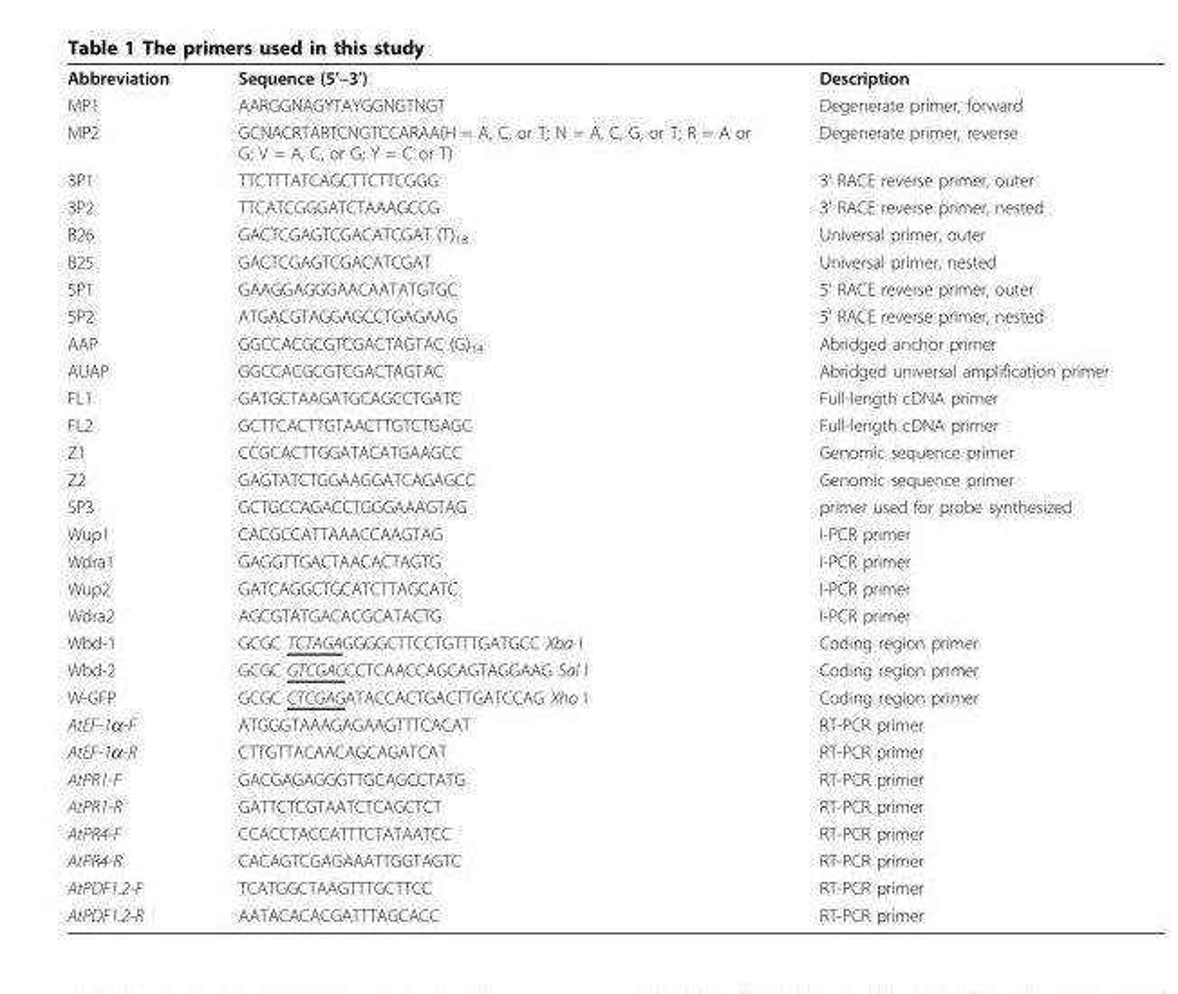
<table><tbody><tr><td>Abbreviation</td><td>Sequence (5’–3’)</td><td>Description</td></tr><tr><td>MP1</td><td>AARGGNAGYTAYGGNGTNGT</td><td>Degenerate primer, forward</td></tr><tr><td>MP2</td><td>GCNACRTARTCNGTCCARAA(H = A, C, or T; N = A, C, G, or T; R = A or G; V = A, C, or G; Y = C or T)</td><td>Degenerate primer, reverse</td></tr><tr><td>3P1</td><td>TTCTTTATCAGCTTCTTCGGG</td><td>3’ RACE reverse primer, outer</td></tr><tr><td>3P2</td><td>TTCATCGGGATCTAAAGCCG</td><td>3’ RACE reverse primer, nested</td></tr><tr><td>B26</td><td>GACTCGAGTCGACATCGAT (T)<sub>18</sub></td><td>Universal primer, outer</td></tr><tr><td>B25</td><td>GACTCGAGTCGACATCGAT</td><td>Universal primer, nested</td></tr><tr><td>5P1</td><td>GAAGGAGGGAACAATATGTGC</td><td>5’ RACE reverse primer, outer</td></tr><tr><td>5P2</td><td>ATGACGTAGGAGCCTGAGAAG</td><td>5’ RACE reverse primer, nested</td></tr><tr><td>AAP</td><td>GGCCACGCGTCGACTAGTAC (G)<sub>14</sub></td><td>Abridged anchor primer</td></tr><tr><td>AUAP</td><td>GGCCACGCGTCGACTAGTAC</td><td>Abridged universal amplification primer</td></tr><tr><td>FL1</td><td>GATGCTAAGATGCAGCCTGATC</td><td>Full-length cDNA primer</td></tr><tr><td>FL2</td><td>GCTTCACTTGTAACTTGTCTGAGC</td><td>Full-length cDNA primer</td></tr><tr><td>Z1</td><td>CCGCACTTGGATACATGAAGCC</td><td>Genomic sequence primer</td></tr><tr><td>Z2</td><td>GAGTATCTGGAAGGATCAGAGCC</td><td>Genomic sequence primer</td></tr><tr><td>5P3</td><td>GCTGCCAGACCTGGGAAAGTAG</td><td>primer used for probe synthesized</td></tr><tr><td>Wup1</td><td>CACGCCATTAAACCAAGTAG</td><td>I-PCR primer</td></tr><tr><td>Wdra1</td><td>GAGGTTGACTAACACTAGTG</td><td>I-PCR primer</td></tr><tr><td>Wup2</td><td>GATCAGGCTGCATCTTAGCATC</td><td>I-PCR primer</td></tr><tr><td>Wdra2</td><td>AGCGTATGACACGCATACTG</td><td>I-PCR primer</td></tr><tr><td>Wbd-1</td><td>GCGC TCTAGAGGGGCTTCCTGTTTGATGCC Xba I</td><td>Coding region primer</td></tr><tr><td>Wbd-2</td><td>GCGC GTCGACCCTCAACCAGCAGTAGGAAG Sal I</td><td>Coding region primer</td></tr><tr><td>W-GFP</td><td>GCGC CTCGAGATACCACTGACTTGATCCAG Xho I</td><td>Coding region primer</td></tr><tr><td>AtEF-1α-F</td><td>ATGGGTAAAGAGAAGTTTCACAT</td><td>RT-PCR primer</td></tr><tr><td>AtEF-1α-R</td><td>CTTGTTACAACAGCAGATCAT</td><td>RT-PCR primer</td></tr><tr><td>AtPR1-F</td><td>GACGAGAGGGTTGCAGCCTATG</td><td>RT-PCR primer</td></tr><tr><td>AtPR1-R</td><td>GATTCTCGTAATCTCAGCTCT</td><td>RT-PCR primer</td></tr><tr><td>AtPR4-F</td><td>CCACCTACCATTTCTATAATCC</td><td>RT-PCR primer</td></tr><tr><td>AtPR4-R</td><td>CACAGTCGAGAAATTGGTAGTC</td><td>RT-PCR primer</td></tr><tr><td>AtPDF1.2-F</td><td>TCATGGCTAAGTTTGCTTCC</td><td>RT-PCR primer</td></tr><tr><td>AtPDF1.2-R</td><td>AATACACACGATTTAGCACC</td><td>RT-PCR primer</td></tr></tbody></table>